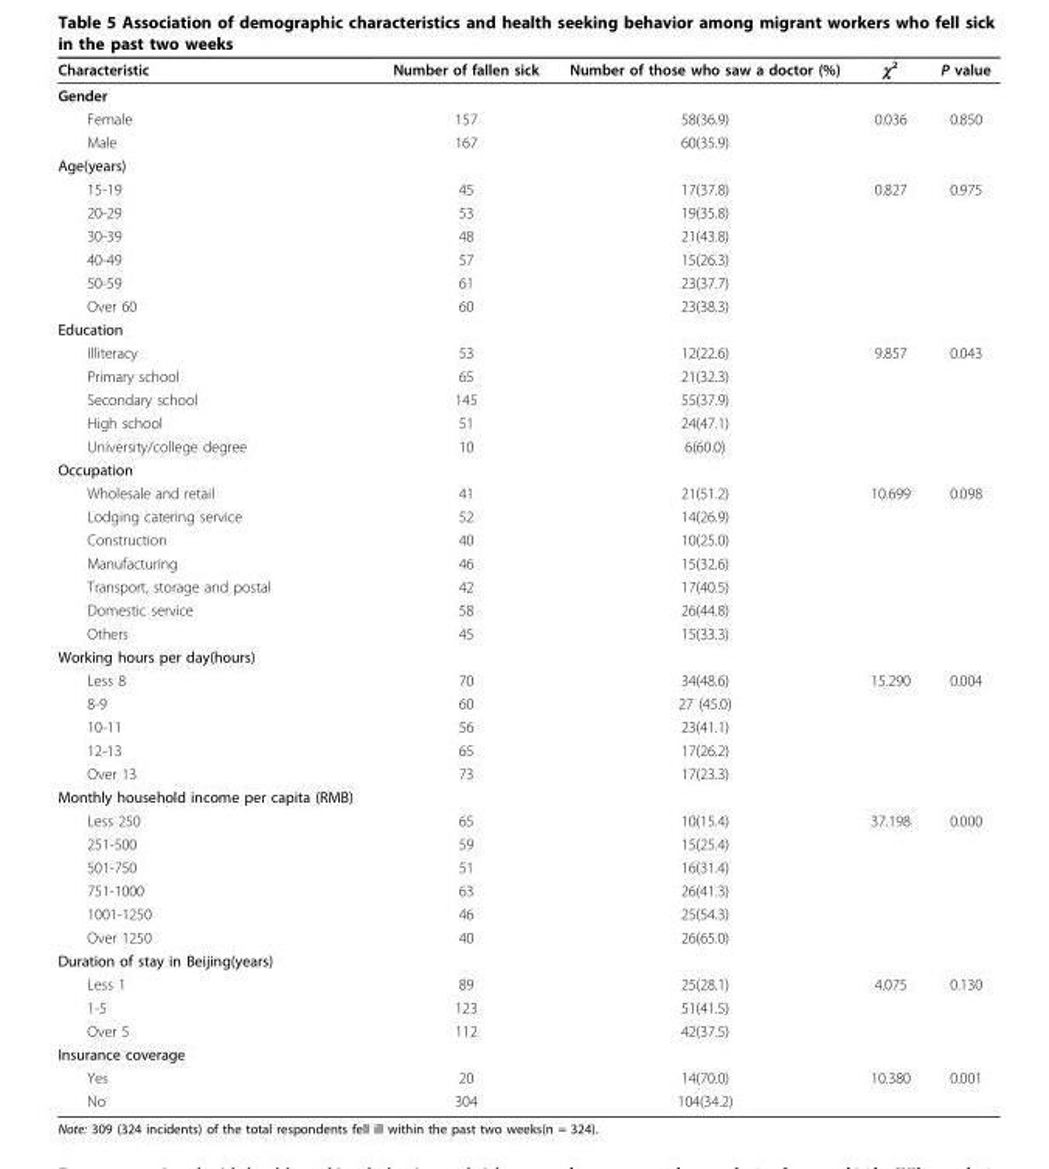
<table><thead><tr><td>Characteristic</td><td>Number of fallen sick</td><td>Number of those who saw a doctor (%)</td><td>χ<sup>2</sup></td><td>P value</td></tr></thead><tbody><tr><td colspan="5">Gender</td></tr><tr><td>Female</td><td>157</td><td>58(36.9)</td><td>0.036</td><td>0.850</td></tr><tr><td>Male</td><td>167</td><td>60(35.9)</td><td></td><td></td></tr><tr><td colspan="5">Age(years)</td></tr><tr><td>15-19</td><td>45</td><td>17(37.8)</td><td>0.827</td><td>0.975</td></tr><tr><td>20-29</td><td>53</td><td>19(35.8)</td><td></td><td></td></tr><tr><td>30-39</td><td>48</td><td>21(43.8)</td><td></td><td></td></tr><tr><td>40-49</td><td>57</td><td>15(26.3)</td><td></td><td></td></tr><tr><td>50-59</td><td>61</td><td>23(37.7)</td><td></td><td></td></tr><tr><td>Over 60</td><td>60</td><td>23(38.3)</td><td></td><td></td></tr><tr><td colspan="5">Education</td></tr><tr><td>Illiteracy</td><td>53</td><td>12(22.6)</td><td>9.857</td><td>0.043</td></tr><tr><td>Primary school</td><td>65</td><td>21(32.3)</td><td></td><td></td></tr><tr><td>Secondary school</td><td>145</td><td>55(37.9)</td><td></td><td></td></tr><tr><td>High school</td><td>51</td><td>24(47.1)</td><td></td><td></td></tr><tr><td>University/college degree</td><td>10</td><td>6(60.0)</td><td></td><td></td></tr><tr><td colspan="5">Occupation</td></tr><tr><td>Wholesale and retail</td><td>41</td><td>21(51.2)</td><td>10.699</td><td>0.098</td></tr><tr><td>Lodging catering service</td><td>52</td><td>14(26.9)</td><td></td><td></td></tr><tr><td>Construction</td><td>40</td><td>10(25.0)</td><td></td><td></td></tr><tr><td>Manufacturing</td><td>46</td><td>15(32.6)</td><td></td><td></td></tr><tr><td>Transport, storage and postal</td><td>42</td><td>17(40.5)</td><td></td><td></td></tr><tr><td>Domestic service</td><td>58</td><td>26(44.8)</td><td></td><td></td></tr><tr><td>Others</td><td>45</td><td>15(33.3)</td><td></td><td></td></tr><tr><td colspan="5">Working hours per day(hours)</td></tr><tr><td>Less 8</td><td>70</td><td>34(48.6)</td><td>15.290</td><td>0.004</td></tr><tr><td>8-9</td><td>60</td><td>27 (45.0)</td><td></td><td></td></tr><tr><td>10-11</td><td>56</td><td>23(41.1)</td><td></td><td></td></tr><tr><td>12-13</td><td>65</td><td>17(26.2)</td><td></td><td></td></tr><tr><td>Over 13</td><td>73</td><td>17(23.3)</td><td></td><td></td></tr><tr><td colspan="5">Monthly household income per capita (RMB)</td></tr><tr><td>Less 250</td><td>65</td><td>10(15.4)</td><td>37.198</td><td>0.000</td></tr><tr><td>251-500</td><td>59</td><td>15(25.4)</td><td></td><td></td></tr><tr><td>501-750</td><td>51</td><td>16(31.4)</td><td></td><td></td></tr><tr><td>751-1000</td><td>63</td><td>26(41.3)</td><td></td><td></td></tr><tr><td>1001-1250</td><td>46</td><td>25(54.3)</td><td></td><td></td></tr><tr><td>Over 1250</td><td>40</td><td>26(65.0)</td><td></td><td></td></tr><tr><td colspan="5">Duration of stay in Beijing(years)</td></tr><tr><td>Less 1</td><td>89</td><td>25(28.1)</td><td>4.075</td><td>0.130</td></tr><tr><td>1-5</td><td>123</td><td>51(41.5)</td><td></td><td></td></tr><tr><td>Over 5</td><td>112</td><td>42(37.5)</td><td></td><td></td></tr><tr><td colspan="5">Insurance coverage</td></tr><tr><td>Yes</td><td>20</td><td>14(70.0)</td><td>10.380</td><td>0.001</td></tr><tr><td>No</td><td>304</td><td>104(34.2)</td><td></td><td></td></tr></tbody></table>